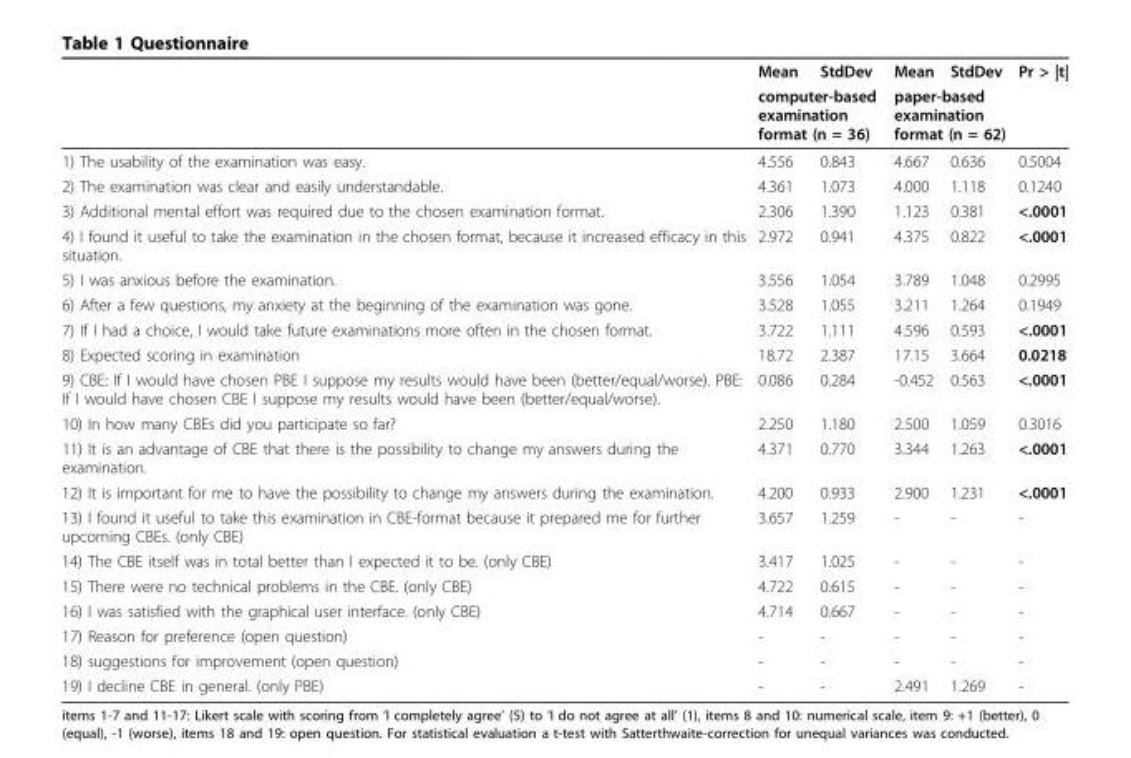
<table><thead><tr><td rowspan="2"></td><td>Mean</td><td>StdDev</td><td>Mean</td><td>StdDev</td><td rowspan="2">Pr &gt; |t|</td></tr><tr><td colspan="2">computer-based examination format (n = 36)</td><td colspan="2">paper-based examination format (n = 62)</td></tr></thead><tbody><tr><td>1) The usability of the examination was easy.</td><td>4.556</td><td>0.843</td><td>4.667</td><td>0.636</td><td>0.5004</td></tr><tr><td>2) The examination was clear and easily understandable.</td><td>4.361</td><td>1.073</td><td>4.000</td><td>1.118</td><td>0.1240</td></tr><tr><td>3) Additional mental effort was required due to the chosen examination format.</td><td>2.306</td><td>1.390</td><td>1.123</td><td>0.381</td><td>&lt;.0001</td></tr><tr><td>4) I found it useful to take the examination in the chosen format, because it increased efficacy in this situation.</td><td>2.972</td><td>0.941</td><td>4.375</td><td>0.822</td><td>&lt;.0001</td></tr><tr><td>5) I was anxious before the examination.</td><td>3.556</td><td>1.054</td><td>3.789</td><td>1.048</td><td>0.2995</td></tr><tr><td>6) After a few questions, my anxiety at the beginning of the examination was gone.</td><td>3.528</td><td>1.055</td><td>3.211</td><td>1.264</td><td>0.1949</td></tr><tr><td>7) If I had a choice, I would take future examinations more often in the chosen format.</td><td>3.722</td><td>1.111</td><td>4.596</td><td>0.593</td><td>&lt;.0001</td></tr><tr><td>8) Expected scoring in examination</td><td>18.72</td><td>2.387</td><td>17.15</td><td>3.664</td><td>0.0218</td></tr><tr><td>9) CBE: If I would have chosen PBE I suppose my results would have been (better/equal/worse). PBE: If I would have chosen CBE I suppose my results would have been (better/equal/worse).</td><td>0.086</td><td>0.284</td><td>-0.452</td><td>0.563</td><td>&lt;.0001</td></tr><tr><td>10) In how many CBEs did you participate so far?</td><td>2.250</td><td>1.180</td><td>2.500</td><td>1.059</td><td>0.3016</td></tr><tr><td>11) It is an advantage of CBE that there is the possibility to change my answers during the examination.</td><td>4.371</td><td>0.770</td><td>3.344</td><td>1.263</td><td>&lt;.0001</td></tr><tr><td>12) It is important for me to have the possibility to change my answers during the examination.</td><td>4.200</td><td>0.933</td><td>2.900</td><td>1.231</td><td>&lt;.0001</td></tr><tr><td>13) I found it useful to take this examination in CBE-format because it prepared me for further upcoming CBEs. (only CBE)</td><td>3.657</td><td>1.259</td><td>-</td><td>-</td><td>-</td></tr><tr><td>14) The CBE itself was in total better than I expected it to be. (only CBE)</td><td>3.417</td><td>1.025</td><td>-</td><td>-</td><td>-</td></tr><tr><td>15) There were no technical problems in the CBE. (only CBE)</td><td>4.722</td><td>0.615</td><td>-</td><td>-</td><td>-</td></tr><tr><td>16) I was satisfied with the graphical user interface. (only CBE)</td><td>4.714</td><td>0.667</td><td>-</td><td>-</td><td>-</td></tr><tr><td>17) Reason for preference (open question)</td><td>-</td><td>-</td><td>-</td><td>-</td><td>-</td></tr><tr><td>18) suggestions for improvement (open question)</td><td>-</td><td>-</td><td>-</td><td>-</td><td>-</td></tr><tr><td>19) I decline CBE in general. (only PBE)</td><td>-</td><td>-</td><td>2.491</td><td>1.269</td><td>-</td></tr></tbody></table>